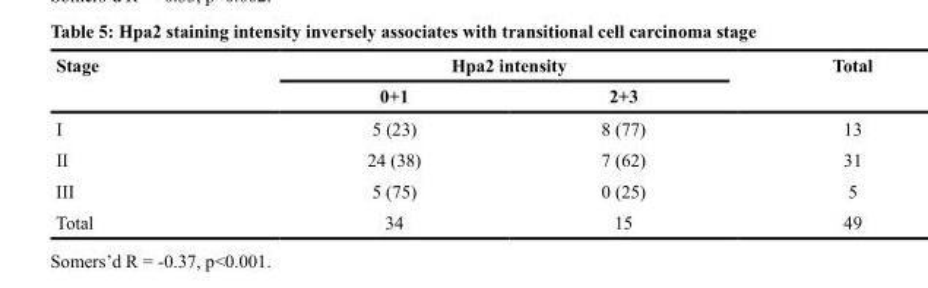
<table><thead><tr><td rowspan="2">Stage</td><td colspan="2">Hpa2 intensity</td><td rowspan="2">Total</td></tr><tr><td>0+1</td><td>2+3</td></tr></thead><tbody><tr><td>I</td><td>5 (23)</td><td>8 (77)</td><td>13</td></tr><tr><td>II</td><td>24 (38)</td><td>7 (62)</td><td>31</td></tr><tr><td>III</td><td>5 (75)</td><td>0 (25)</td><td>5</td></tr><tr><td>Total</td><td>34</td><td>15</td><td>49</td></tr></tbody></table>